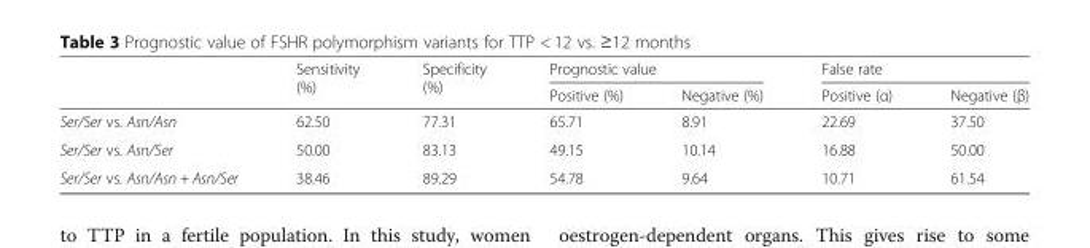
<table><thead><tr><td rowspan="2"></td><td rowspan="2">Sensitivity (%)</td><td rowspan="2">Specificity (%)</td><td colspan="2">Prognostic value</td><td colspan="2">False rate</td></tr><tr><td>Positive (%)</td><td>Negative (%)</td><td>Positive (α)</td><td>Negative (β)</td></tr></thead><tbody><tr><td>Ser/Ser vs. Asn/Asn</td><td>62.50</td><td>77.31</td><td>65.71</td><td>8.91</td><td>22.69</td><td>37.50</td></tr><tr><td>Ser/Ser vs. Asn/Ser</td><td>50.00</td><td>83.13</td><td>49.15</td><td>10.14</td><td>16.88</td><td>50.00</td></tr><tr><td>Ser/Ser vs. Asn/Asn + Asn/Ser</td><td>38.46</td><td>89.29</td><td>54.78</td><td>9.64</td><td>10.71</td><td>61.54</td></tr></tbody></table>